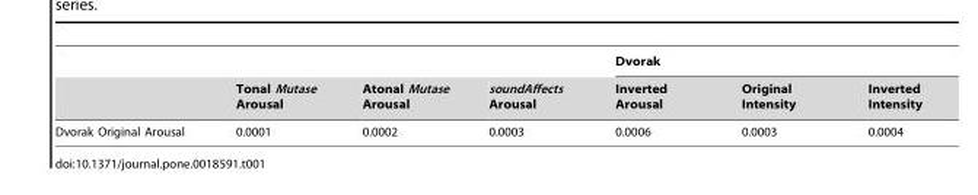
<table><thead><tr><td rowspan="2"></td><td rowspan="2">Tonal Mutase Arousal</td><td rowspan="2">Atonal Mutase Arousal</td><td rowspan="2">soundAffects Arousal</td><td colspan="3">Dvorak</td></tr><tr><td>Inverted Arousal</td><td>Original Intensity</td><td>Inverted Intensity</td></tr></thead><tbody><tr><td>Dvorak Original Arousal</td><td>0.0001</td><td>0.0002</td><td>0.0003</td><td>0.0006</td><td>0.0003</td><td>0.0004</td></tr></tbody></table>